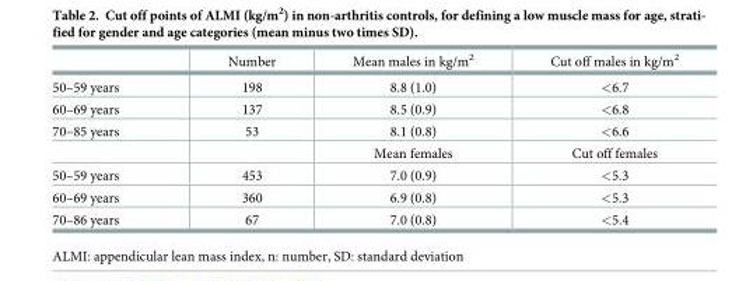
<table><thead><tr><td></td><td>Number</td><td>Mean males in kg/m<sup>2</sup></td><td>Cut off males in kg/m<sup>2</sup></td></tr></thead><tbody><tr><td>50–59 years</td><td>198</td><td>8.8 (1.0)</td><td>&lt;6.7</td></tr><tr><td>60–69 years</td><td>137</td><td>8.5 (0.9)</td><td>&lt;6.8</td></tr><tr><td rowspan="2">70–85 years</td><td>53</td><td>8.1 (0.8)</td><td>&lt;6.6</td></tr><tr><td></td><td>Mean females</td><td>Cut off females</td></tr><tr><td>50–59 years</td><td>453</td><td>7.0 (0.9)</td><td>&lt;5.3</td></tr><tr><td>60–69 years</td><td>360</td><td>6.9 (0.8)</td><td>&lt;5.3</td></tr><tr><td>70–86 years</td><td>67</td><td>7.0 (0.8)</td><td>&lt;5.4</td></tr></tbody></table>